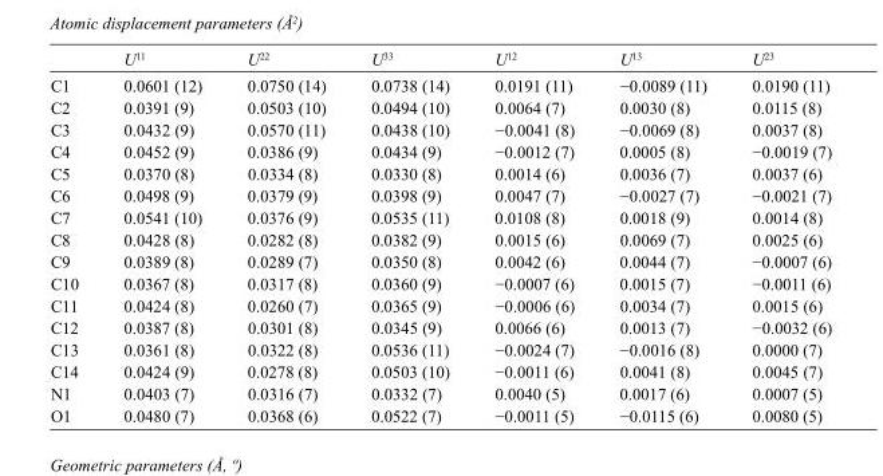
<table><thead><tr><td></td><td>U<sup>11</sup></td><td>U<sup>22</sup></td><td>U<sup>33</sup></td><td>U<sup>12</sup></td><td>U<sup>13</sup></td><td>U<sup>23</sup></td></tr></thead><tbody><tr><td>C1</td><td>0.0601 (12)</td><td>0.0750 (14)</td><td>0.0738 (14)</td><td>0.0191 (11)</td><td>−0.0089 (11)</td><td>0.0190 (11)</td></tr><tr><td>C2</td><td>0.0391 (9)</td><td>0.0503 (10)</td><td>0.0494 (10)</td><td>0.0064 (7)</td><td>0.0030 (8)</td><td>0.0115 (8)</td></tr><tr><td>C3</td><td>0.0432 (9)</td><td>0.0570 (11)</td><td>0.0438 (10)</td><td>−0.0041 (8)</td><td>−0.0069 (8)</td><td>0.0037 (8)</td></tr><tr><td>C4</td><td>0.0452 (9)</td><td>0.0386 (9)</td><td>0.0434 (9)</td><td>−0.0012 (7)</td><td>0.0005 (8)</td><td>−0.0019 (7)</td></tr><tr><td>C5</td><td>0.0370 (8)</td><td>0.0334 (8)</td><td>0.0330 (8)</td><td>0.0014 (6)</td><td>0.0036 (7)</td><td>0.0037 (6)</td></tr><tr><td>C6</td><td>0.0498 (9)</td><td>0.0379 (9)</td><td>0.0398 (9)</td><td>0.0047 (7)</td><td>−0.0027 (7)</td><td>−0.0021 (7)</td></tr><tr><td>C7</td><td>0.0541 (10)</td><td>0.0376 (9)</td><td>0.0535 (11)</td><td>0.0108 (8)</td><td>0.0018 (9)</td><td>0.0014 (8)</td></tr><tr><td>C8</td><td>0.0428 (8)</td><td>0.0282 (8)</td><td>0.0382 (9)</td><td>0.0015 (6)</td><td>0.0069 (7)</td><td>0.0025 (6)</td></tr><tr><td>C9</td><td>0.0389 (8)</td><td>0.0289 (7)</td><td>0.0350 (8)</td><td>0.0042 (6)</td><td>0.0044 (7)</td><td>−0.0007 (6)</td></tr><tr><td>C10</td><td>0.0367 (8)</td><td>0.0317 (8)</td><td>0.0360 (9)</td><td>−0.0007 (6)</td><td>0.0015 (7)</td><td>−0.0011 (6)</td></tr><tr><td>C11</td><td>0.0424 (8)</td><td>0.0260 (7)</td><td>0.0365 (9)</td><td>−0.0006 (6)</td><td>0.0034 (7)</td><td>0.0015 (6)</td></tr><tr><td>C12</td><td>0.0387 (8)</td><td>0.0301 (8)</td><td>0.0345 (9)</td><td>0.0066 (6)</td><td>0.0013 (7)</td><td>−0.0032 (6)</td></tr><tr><td>C13</td><td>0.0361 (8)</td><td>0.0322 (8)</td><td>0.0536 (11)</td><td>−0.0024 (7)</td><td>−0.0016 (8)</td><td>0.0000 (7)</td></tr><tr><td>C14</td><td>0.0424 (9)</td><td>0.0278 (8)</td><td>0.0503 (10)</td><td>−0.0011 (6)</td><td>0.0041 (8)</td><td>0.0045 (7)</td></tr><tr><td>N1</td><td>0.0403 (7)</td><td>0.0316 (7)</td><td>0.0332 (7)</td><td>0.0040 (5)</td><td>0.0017 (6)</td><td>0.0007 (5)</td></tr><tr><td>O1</td><td>0.0480 (7)</td><td>0.0368 (6)</td><td>0.0522 (7)</td><td>−0.0011 (5)</td><td>−0.0115 (6)</td><td>0.0080 (5)</td></tr></tbody></table>